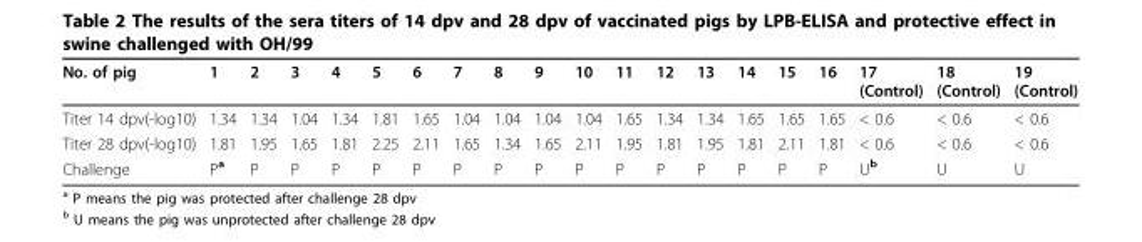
<table><thead><tr><td>No. of pig</td><td>1</td><td>2</td><td>3</td><td>4</td><td>5</td><td>6</td><td>7</td><td>8</td><td>9</td><td>10</td><td>11</td><td>12</td><td>13</td><td>14</td><td>15</td><td>16</td><td>17 (Control)</td><td>18 (Control)</td><td>19 (Control)</td></tr></thead><tbody><tr><td>Titer 14 dpv(-log10)</td><td>1.34</td><td>1.34</td><td>1.04</td><td>1.34</td><td>1.81</td><td>1.65</td><td>1.04</td><td>1.04</td><td>1.04</td><td>1.04</td><td>1.65</td><td>1.34</td><td>1.34</td><td>1.65</td><td>1.65</td><td>1.65</td><td>&lt; 0.6</td><td>&lt; 0.6</td><td>&lt; 0.6</td></tr><tr><td>Titer 28 dpv(-log10)</td><td>1.81</td><td>1.95</td><td>1.65</td><td>1.81</td><td>2.25</td><td>2.11</td><td>1.65</td><td>1.34</td><td>1.65</td><td>2.11</td><td>1.95</td><td>1.81</td><td>1.95</td><td>1.81</td><td>2.11</td><td>1.81</td><td>&lt; 0.6</td><td>&lt; 0.6</td><td>&lt; 0.6</td></tr><tr><td>Challenge</td><td>P<sup>a</sup></td><td>P</td><td>P</td><td>P</td><td>P</td><td>P</td><td>P</td><td>P</td><td>P</td><td>P</td><td>P</td><td>P</td><td>P</td><td>P</td><td>P</td><td>P</td><td>U<sup>b</sup></td><td>U</td><td>U</td></tr></tbody></table>